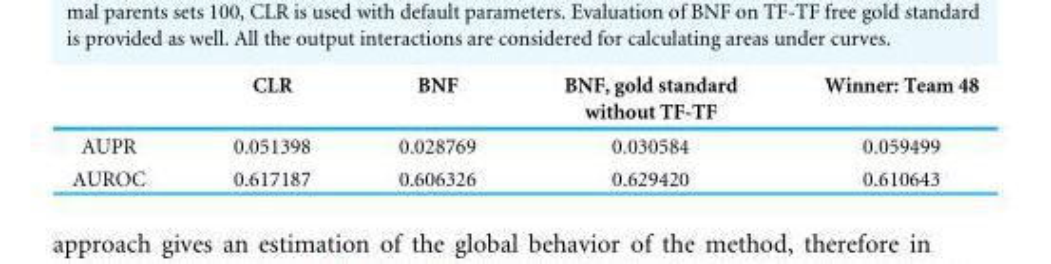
<table><thead><tr><td rowspan="2"></td><td rowspan="2">CLR</td><td rowspan="2">BNF</td><td rowspan="2">BNF, gold standard without TF-TF</td><td rowspan="2">Winner: Team 48</td></tr><tr></tr></thead><tbody><tr><td>AUPR</td><td>0.051398</td><td>0.028769</td><td>0.030584</td><td>0.059499</td></tr><tr><td>AUROC</td><td>0.617187</td><td>0.606326</td><td>0.629420</td><td>0.610643</td></tr></tbody></table>